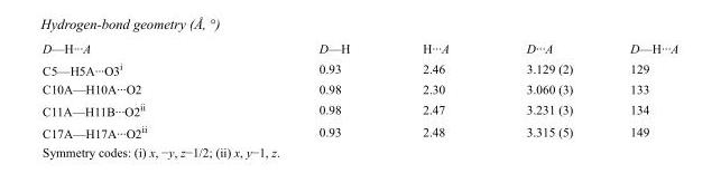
<table><tbody><tr><td>D—H···A</td><td>D—H</td><td>H···A</td><td>D···A</td><td>D—H···A</td></tr><tr><td>C5—H5A···O3<sup>i</sup></td><td>0.93</td><td>2.46</td><td>3.129 (2)</td><td>129</td></tr><tr><td>C10A—H10A···O2</td><td>0.98</td><td>2.30</td><td>3.060 (3)</td><td>133</td></tr><tr><td>C11A—H11B···O2<sup>ii</sup></td><td>0.98</td><td>2.47</td><td>3.231 (3)</td><td>134</td></tr><tr><td>C17A—H17A···O2<sup>ii</sup></td><td>0.93</td><td>2.48</td><td>3.315 (5)</td><td>149</td></tr></tbody></table>